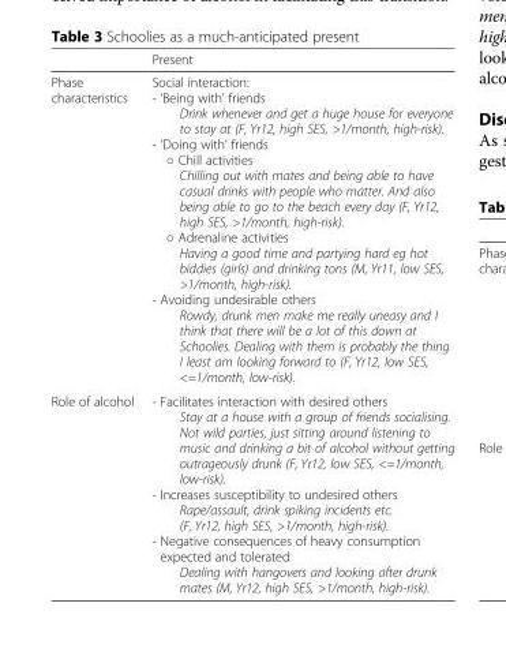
<table><thead><tr><td></td><td>Present</td></tr></thead><tbody><tr><td>Phase characteristics</td><td>Social interaction: - ‘Being with’ friends Drink whenever and get a huge house for everyone to stay at (F, Yr12, high SES, &gt;1/month, high-risk). - ‘Doing with’ friends ○ Chill activities Chilling out with mates and being able to have casual drinks with people who matter. And also being able to go to the beach every day (F, Yr12, high SES, &gt;1/month, high-risk). ○ Adrenaline activities Having a good time and partying hard eg hot biddies (girls) and drinking tons (M, Yr11, low SES, &gt;1/month, high-risk). - Avoiding undesirable others Rowdy, drunk men make me really uneasy and I think that there will be a lot of this down at Schoolies. Dealing with them is probably the thing I least am looking forward to (F, Yr12, low SES, &lt;=1/month, low-risk).</td></tr><tr><td>Role of alcohol</td><td>- Facilitates interaction with desired others Stay at a house with a group of friends socialising. Not wild parties, just sitting around listening to music and drinking a bit of alcohol without getting outrageously drunk (F, Yr12, low SES, &lt;=1/month, low-risk). - Increases susceptibility to undesired others Rape/assault, drink spiking incidents etc. (F, Yr12, high SES, &gt;1/month, high-risk). - Negative consequences of heavy consumption expected and tolerated Dealing with hangovers and looking after drunk mates (M, Yr12, high SES, &gt;1/month, high-risk).</td></tr></tbody></table>